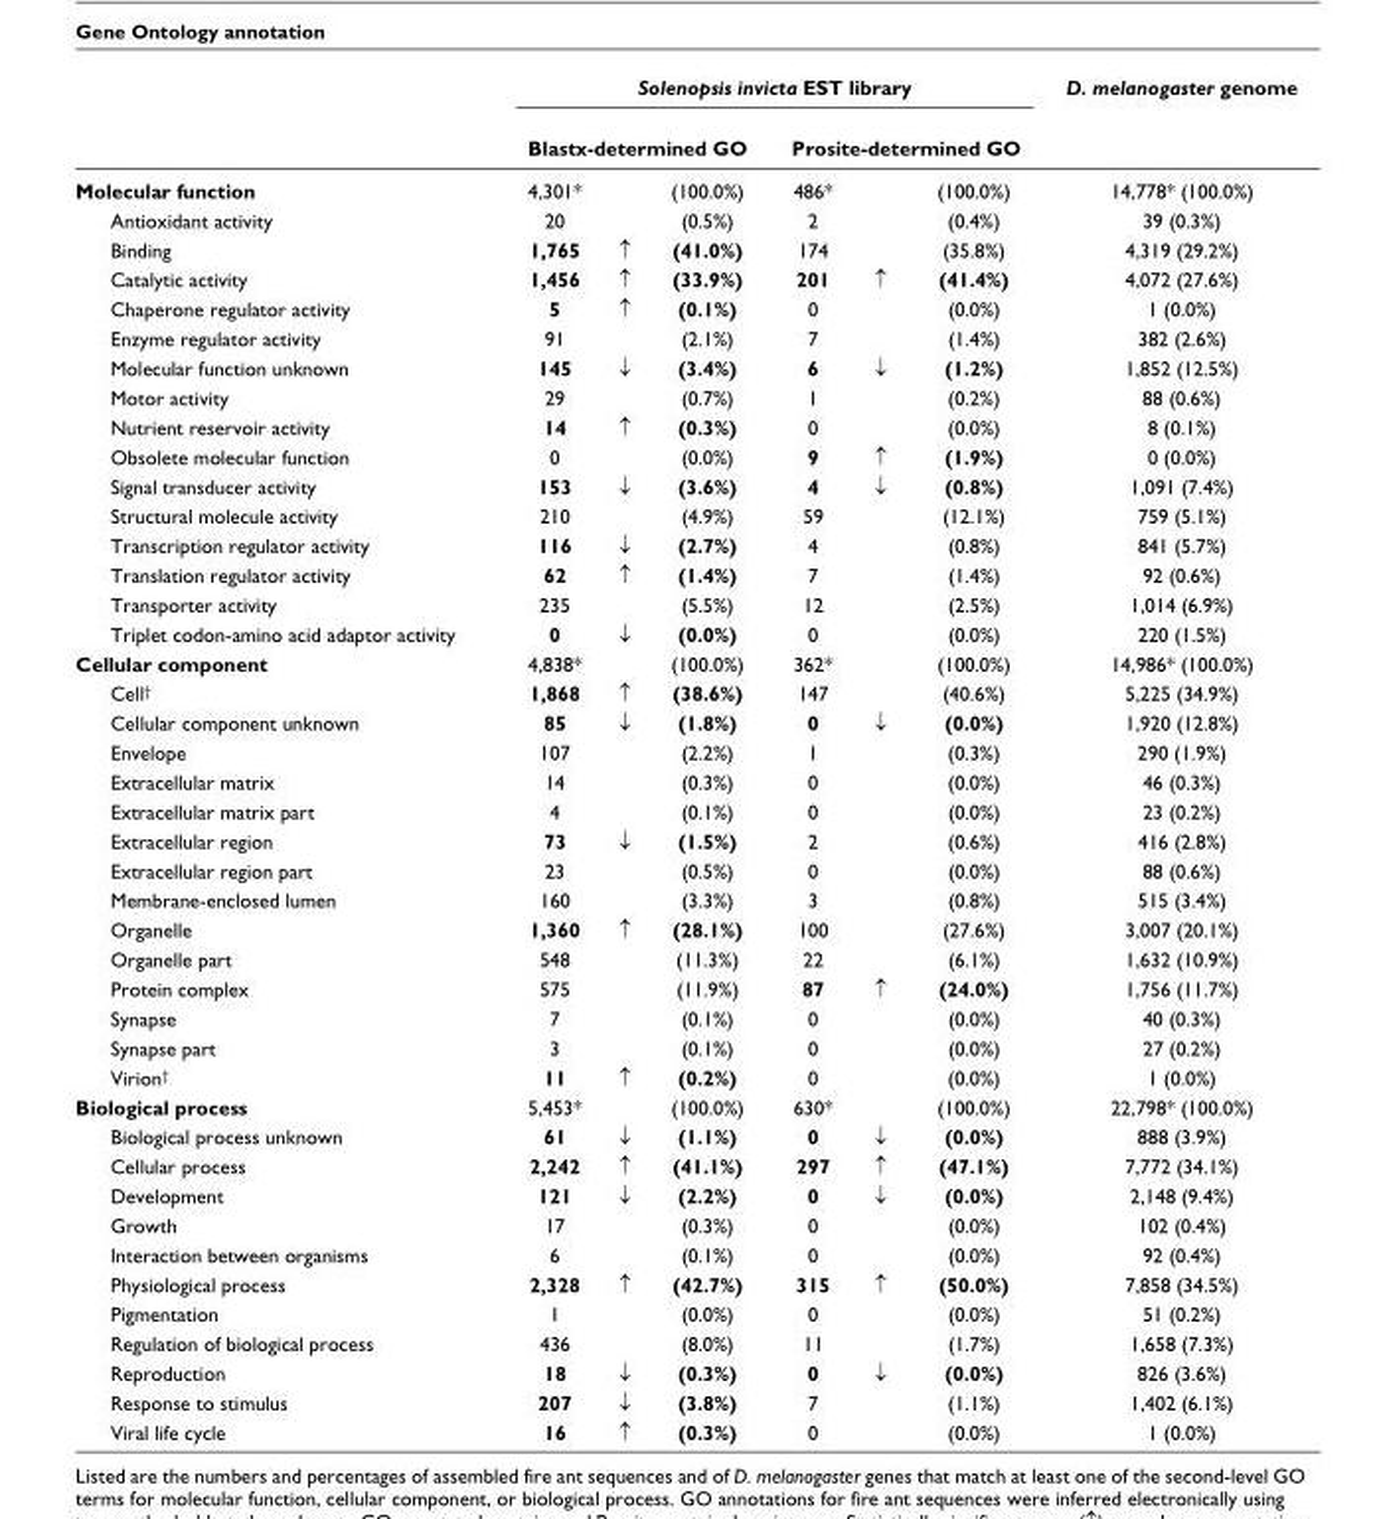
<table><thead><tr><td rowspan="3">Molecular function</td><td colspan="6">Solenopsis invicta EST library</td><td rowspan="3">D. melanogaster genome 14,778* (100.0%)</td></tr><tr><td colspan="3">Blastx-determined GO</td><td colspan="3">Prosite-determined GO</td></tr><tr><td>4,301*</td><td></td><td>(100.0%)</td><td>486*</td><td></td><td>(100.0%)</td></tr></thead><tbody><tr><td>Antioxidant activity</td><td>20</td><td></td><td>(0.5%)</td><td>2</td><td></td><td>(0.4%)</td><td>39 (0.3%)</td></tr><tr><td>Binding</td><td>1,765</td><td>↑</td><td>(41.0%)</td><td>174</td><td></td><td>(35.8%)</td><td>4,319 (29.2%)</td></tr><tr><td>Catalytic activity</td><td>1,456</td><td>↑</td><td>(33.9%)</td><td>201</td><td>↑</td><td>(41.4%)</td><td>4,072 (27.6%)</td></tr><tr><td>Chaperone regulator activity</td><td>5</td><td>↑</td><td>(0.1%)</td><td>0</td><td></td><td>(0.0%)</td><td>1 (0.0%)</td></tr><tr><td>Enzyme regulator activity</td><td>91</td><td></td><td>(2.1%)</td><td>7</td><td></td><td>(1.4%)</td><td>382 (2.6%)</td></tr><tr><td>Molecular function unknown</td><td>145</td><td>↓</td><td>(3.4%)</td><td>6</td><td>↓</td><td>(1.2%)</td><td>1,852 (12.5%)</td></tr><tr><td>Motor activity</td><td>29</td><td></td><td>(0.7%)</td><td>1</td><td></td><td>(0.2%)</td><td>88 (0.6%)</td></tr><tr><td>Nutrient reservoir activity</td><td>14</td><td>↑</td><td>(0.3%)</td><td>0</td><td></td><td>(0.0%)</td><td>8 (0.1%)</td></tr><tr><td>Obsolete molecular function</td><td>0</td><td></td><td>(0.0%)</td><td>9</td><td>↑</td><td>(1.9%)</td><td>0 (0.0%)</td></tr><tr><td>Signal transducer activity</td><td>153</td><td>↓</td><td>(3.6%)</td><td>4</td><td>↓</td><td>(0.8%)</td><td>1,091 (7.4%)</td></tr><tr><td>Structural molecule activity</td><td>210</td><td></td><td>(4.9%)</td><td>59</td><td></td><td>(12.1%)</td><td>759 (5.1%)</td></tr><tr><td>Transcription regulator activity</td><td>116</td><td>↓</td><td>(2.7%)</td><td>4</td><td></td><td>(0.8%)</td><td>841 (5.7%)</td></tr><tr><td>Translation regulator activity</td><td>62</td><td>↑</td><td>(1.4%)</td><td>7</td><td></td><td>(1.4%)</td><td>92 (0.6%)</td></tr><tr><td>Transporter activity</td><td>235</td><td></td><td>(5.5%)</td><td>12</td><td></td><td>(2.5%)</td><td>1,014 (6.9%)</td></tr><tr><td>Triplet codon-amino acid adaptor activity</td><td>0</td><td>↓</td><td>(0.0%)</td><td>0</td><td></td><td>(0.0%)</td><td>220 (1.5%)</td></tr><tr><td>Cellular component</td><td>4,838*</td><td></td><td>(100.0%)</td><td>362*</td><td></td><td>(100.0%)</td><td>14,986* (100.0%)</td></tr><tr><td>Cell†</td><td>1,868</td><td>↑</td><td>(38.6%)</td><td>147</td><td></td><td>(40.6%)</td><td>5,225 (34.9%)</td></tr><tr><td>Cellular component unknown</td><td>85</td><td>↓</td><td>(1.8%)</td><td>0</td><td>↓</td><td>(0.0%)</td><td>1,920 (12.8%)</td></tr><tr><td>Envelope</td><td>107</td><td></td><td>(2.2%)</td><td>1</td><td></td><td>(0.3%)</td><td>290 (1.9%)</td></tr><tr><td>Extracellular matrix</td><td>14</td><td></td><td>(0.3%)</td><td>0</td><td></td><td>(0.0%)</td><td>46 (0.3%)</td></tr><tr><td>Extracellular matrix part</td><td>4</td><td></td><td>(0.1%)</td><td>0</td><td></td><td>(0.0%)</td><td>23 (0.2%)</td></tr><tr><td>Extracellular region</td><td>73</td><td>↓</td><td>(1.5%)</td><td>2</td><td></td><td>(0.6%)</td><td>416 (2.8%)</td></tr><tr><td>Extracellular region part</td><td>23</td><td></td><td>(0.5%)</td><td>0</td><td></td><td>(0.0%)</td><td>88 (0.6%)</td></tr><tr><td>Membrane-enclosed lumen</td><td>160</td><td></td><td>(3.3%)</td><td>3</td><td></td><td>(0.8%)</td><td>515 (3.4%)</td></tr><tr><td>Organelle</td><td>1,360</td><td>↑</td><td>(28.1%)</td><td>100</td><td></td><td>(27.6%)</td><td>3,007 (20.1%)</td></tr><tr><td>Organelle part</td><td>548</td><td></td><td>(11.3%)</td><td>22</td><td></td><td>(6.1%)</td><td>1,632 (10.9%)</td></tr><tr><td>Protein complex</td><td>575</td><td></td><td>(11.9%)</td><td>87</td><td>↑</td><td>(24.0%)</td><td>1,756 (11.7%)</td></tr><tr><td>Synapse</td><td>7</td><td></td><td>(0.1%)</td><td>0</td><td></td><td>(0.0%)</td><td>40 (0.3%)</td></tr><tr><td>Synapse part</td><td>3</td><td></td><td>(0.1%)</td><td>0</td><td></td><td>(0.0%)</td><td>27 (0.2%)</td></tr><tr><td>Virion†</td><td>11</td><td>↑</td><td>(0.2%)</td><td>0</td><td></td><td>(0.0%)</td><td>1 (0.0%)</td></tr><tr><td>Biological process</td><td>5,453*</td><td></td><td>(100.0%)</td><td>630*</td><td></td><td>(100.0%)</td><td>22,798* (100.0%)</td></tr><tr><td>Biological process unknown</td><td>61</td><td>↓</td><td>(1.1%)</td><td>0</td><td>↓</td><td>(0.0%)</td><td>888 (3.9%)</td></tr><tr><td>Cellular process</td><td>2,242</td><td>↑</td><td>(41.1%)</td><td>297</td><td>↑</td><td>(47.1%)</td><td>7,772 (34.1%)</td></tr><tr><td>Development</td><td>121</td><td>↓</td><td>(2.2%)</td><td>0</td><td>↓</td><td>(0.0%)</td><td>2,148 (9.4%)</td></tr><tr><td>Growth</td><td>17</td><td></td><td>(0.3%)</td><td>0</td><td></td><td>(0.0%)</td><td>102 (0.4%)</td></tr><tr><td>Interaction between organisms</td><td>6</td><td></td><td>(0.1%)</td><td>0</td><td></td><td>(0.0%)</td><td>92 (0.4%)</td></tr><tr><td>Physiological process</td><td>2,328</td><td>↑</td><td>(42.7%)</td><td>315</td><td>↑</td><td>(50.0%)</td><td>7,858 (34.5%)</td></tr><tr><td>Pigmentation</td><td>1</td><td></td><td>(0.0%)</td><td>0</td><td></td><td>(0.0%)</td><td>51 (0.2%)</td></tr><tr><td>Regulation of biological process</td><td>436</td><td></td><td>(8.0%)</td><td>11</td><td></td><td>(1.7%)</td><td>1,658 (7.3%)</td></tr><tr><td>Reproduction</td><td>18</td><td>↓</td><td>(0.3%)</td><td>0</td><td>↓</td><td>(0.0%)</td><td>826 (3.6%)</td></tr><tr><td>Response to stimulus</td><td>207</td><td>↓</td><td>(3.8%)</td><td>7</td><td></td><td>(1.1%)</td><td>1,402 (6.1%)</td></tr><tr><td>Viral life cycle</td><td>16</td><td>↑</td><td>(0.3%)</td><td>0</td><td></td><td>(0.0%)</td><td>1 (0.0%)</td></tr></tbody></table>